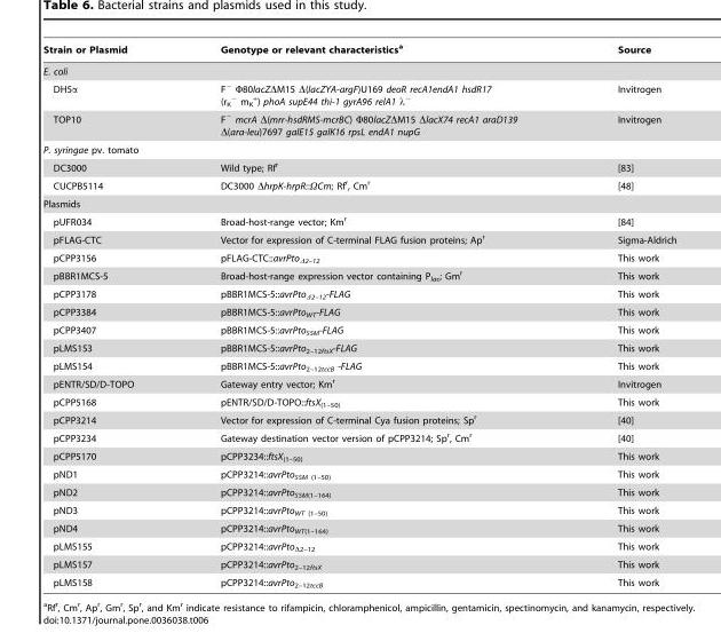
<table><thead><tr><td>Strain or Plasmid</td><td>Genotype or relevant characteristics<sup>a</sup></td><td>Source</td></tr></thead><tbody><tr><td colspan="3">E. coli</td></tr><tr><td>DH5α</td><td>F<sup>−</sup> Φ80lacZΔM15 Δ(lacZYA-argF)U169 deoR recA1endA1 hsdR17 (r<sub>K</sub> <sup>−</sup> m<sub>K</sub> <sup>+</sup>) phoA supE44 thi-1 gyrA96 relA1 λ<sup>−</sup></td><td>Invitrogen</td></tr><tr><td>TOP10</td><td>F<sup>−</sup> mcrA Δ(mrr-hsdRMS-mcrBC) Φ80lacZΔM15 ΔlacX74 recA1 araD139 Δ(ara-leu)7697 galE15 galK16 rpsL endA1 nupG</td><td>Invitrogen</td></tr><tr><td colspan="3">P. syringae pv. tomato</td></tr><tr><td>DC3000</td><td>Wild type; Rf<sup>r</sup></td><td>[83]</td></tr><tr><td>CUCPB5114</td><td>DC3000 ΔhrpK-hrpR::ΩCm; Rf<sup>r</sup>, Cm<sup>r</sup></td><td>[48]</td></tr><tr><td colspan="3">Plasmids</td></tr><tr><td>pUFR034</td><td>Broad-host-range vector; Km<sup>r</sup></td><td>[84]</td></tr><tr><td>pFLAG-CTC</td><td>Vector for expression of C-terminal FLAG fusion proteins; Ap<sup>r</sup></td><td>Sigma-Aldrich</td></tr><tr><td>pCPP3156</td><td>pFLAG-CTC::avrPto<sub>Δ2–12</sub></td><td>This work</td></tr><tr><td>pBBR1MCS-5</td><td>Broad-host-range expression vector containing P<sub>lac</sub>; Gm<sup>r</sup></td><td>This work</td></tr><tr><td>pCPP3178</td><td>pBBR1MCS-5::avrPto<sub>Δ2–12</sub>-FLAG</td><td>This work</td></tr><tr><td>pCPP3384</td><td>pBBR1MCS-5::avrPto<sub>WT</sub>-FLAG</td><td>This work</td></tr><tr><td>pCPP3407</td><td>pBBR1MCS-5::avrPto<sub>SSM</sub>-FLAG</td><td>This work</td></tr><tr><td>pLMS153</td><td>pBBR1MCS-5::avrPto<sub>2–12ftsX</sub>-FLAG</td><td>This work</td></tr><tr><td>pLMS154</td><td>pBBR1MCS-5::avrPto<sub>2–12tccB</sub> -FLAG</td><td>This work</td></tr><tr><td>pENTR/SD/D-TOPO</td><td>Gateway entry vector; Km<sup>r</sup></td><td>Invitrogen</td></tr><tr><td>pCPP5168</td><td>pENTR/SD/D-TOPO::ftsX<sub>(1–50)</sub></td><td>This work</td></tr><tr><td>pCPP3214</td><td>Vector for expression of C-terminal Cya fusion proteins; Sp<sup>r</sup></td><td>[40]</td></tr><tr><td>pCPP3234</td><td>Gateway destination vector version of pCPP3214; Sp<sup>r</sup>, Cm<sup>r</sup></td><td>[40]</td></tr><tr><td>pCPP5170</td><td>pCPP3234::ftsX<sub>(1–50)</sub></td><td>This work</td></tr><tr><td>pND1</td><td>pCPP3214::avrPto<sub>SSM (1–50)</sub></td><td>This work</td></tr><tr><td>pND2</td><td>pCPP3214::avrPto<sub>SSM(1–164)</sub></td><td>This work</td></tr><tr><td>pND3</td><td>pCPP3214::avrPto<sub>WT (1–50)</sub></td><td>This work</td></tr><tr><td>pND4</td><td>pCPP3214::avrPto<sub>WT(1–164)</sub></td><td>This work</td></tr><tr><td>pLMS155</td><td>pCPP3214::avrPto<sub>Δ2–12</sub></td><td>This work</td></tr><tr><td>pLMS157</td><td>pCPP3214::avrPto<sub>2–12ftsX</sub></td><td>This work</td></tr><tr><td>pLMS158</td><td>pCPP3214::avrPto<sub>2–12tccB</sub></td><td>This work</td></tr></tbody></table>